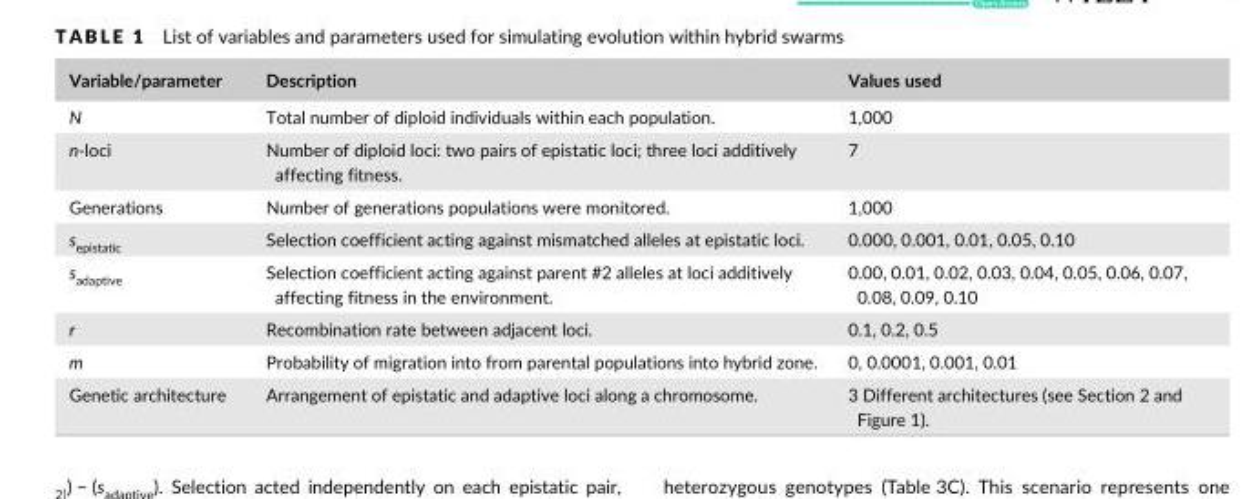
<table><thead><tr><td>Variable/parameter</td><td>Description</td><td>Values used</td></tr></thead><tbody><tr><td>N</td><td>Total number of diploid individuals within each population.</td><td>1,000</td></tr><tr><td>n- loci</td><td>Number of diploid loci: two pairs of epistatic loci; three loci additively affecting fitness.</td><td>7</td></tr><tr><td>Generations</td><td>Number of generations populations were monitored.</td><td>1,000</td></tr><tr><td>s<sub>epistatic</sub></td><td>Selection coefficient acting against mismatched alleles at epistatic loci.</td><td>0.000, 0.001, 0.01, 0.05, 0.10</td></tr><tr><td>s<sub>adaptive</sub></td><td>Selection coefficient acting against parent #2 alleles at loci additively affecting fitness in the environment.</td><td>0.00, 0.01, 0.02, 0.03, 0.04, 0.05, 0.06, 0.07, 0.08, 0.09, 0.10</td></tr><tr><td>r</td><td>Recombination rate between adjacent loci.</td><td>0.1, 0.2, 0.5</td></tr><tr><td>m</td><td>Probability of migration into from parental populations into hybrid zone.</td><td>0, 0.0001, 0.001, 0.01</td></tr><tr><td>Genetic architecture</td><td>Arrangement of epistatic and adaptive loci along a chromosome.</td><td>3 Different architectures (see Section 2 and Figure 1).</td></tr></tbody></table>